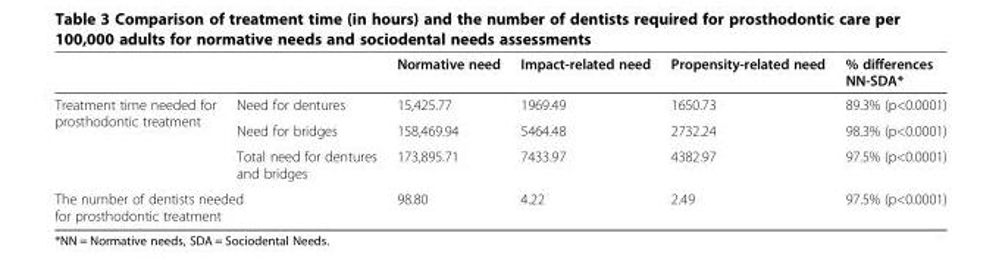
<table><thead><tr><td></td><td></td><td>Normative need</td><td>Impact-related need</td><td>Propensity-related need</td><td>% differences NN-SDA*</td></tr></thead><tbody><tr><td rowspan="3">Treatment time needed for prosthodontic treatment</td><td>Need for dentures</td><td>15,425.77</td><td>1969.49</td><td>1650.73</td><td>89.3% (p&lt;0.0001)</td></tr><tr><td>Need for bridges</td><td>158,469.94</td><td>5464.48</td><td>2732.24</td><td>98.3% (p&lt;0.0001)</td></tr><tr><td>Total need for dentures and bridges</td><td>173,895.71</td><td>7433.97</td><td>4382.97</td><td>97.5% (p&lt;0.0001)</td></tr><tr><td colspan="2">The number of dentists needed for prosthodontic treatment</td><td>98.80</td><td>4.22</td><td>2.49</td><td>97.5% (p&lt;0.0001)</td></tr></tbody></table>